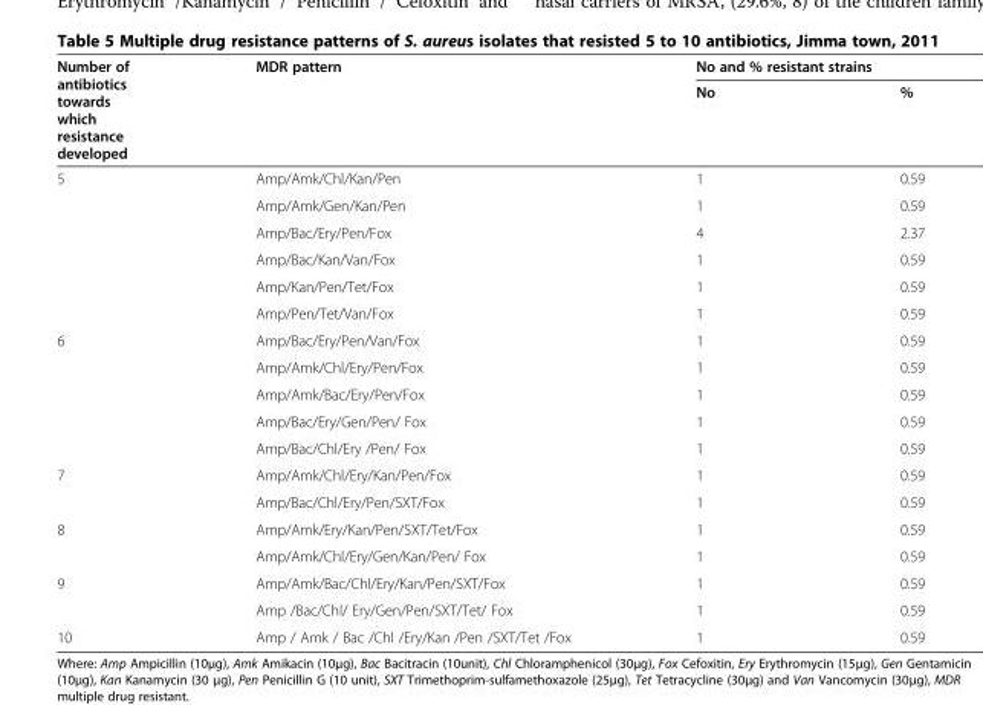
<table><thead><tr><td rowspan="2">Number of antibiotics towards which resistance developed</td><td rowspan="2">MDR pattern</td><td colspan="2">No and % resistant strains</td></tr><tr><td>No</td><td>%</td></tr></thead><tbody><tr><td rowspan="6">5</td><td>Amp/Amk/Chl/Kan/Pen</td><td>1</td><td>0.59</td></tr><tr><td>Amp/Amk/Gen/Kan/Pen</td><td>1</td><td>0.59</td></tr><tr><td>Amp/Bac/Ery/Pen/Fox</td><td>4</td><td>2.37</td></tr><tr><td>Amp/Bac/Kan/Van/Fox</td><td>1</td><td>0.59</td></tr><tr><td>Amp/Kan/Pen/Tet/Fox</td><td>1</td><td>0.59</td></tr><tr><td>Amp/Pen/Tet/Van/Fox</td><td>1</td><td>0.59</td></tr><tr><td rowspan="5">6</td><td>Amp/Bac/Ery/Pen/Van/Fox</td><td>1</td><td>0.59</td></tr><tr><td>Amp/Amk/Chl/Ery/Pen/Fox</td><td>1</td><td>0.59</td></tr><tr><td>Amp/Amk/Bac/Ery/Pen/Fox</td><td>1</td><td>0.59</td></tr><tr><td>Amp/Bac/Ery/Gen/Pen/ Fox</td><td>1</td><td>0.59</td></tr><tr><td>Amp/Bac/Chl/Ery /Pen/ Fox</td><td>1</td><td>0.59</td></tr><tr><td rowspan="2">7</td><td>Amp/Amk/Chl/Ery/Kan/Pen/Fox</td><td>1</td><td>0.59</td></tr><tr><td>Amp/Bac/Chl/Ery/Pen/SXT/Fox</td><td>1</td><td>0.59</td></tr><tr><td rowspan="2">8</td><td>Amp/Amk/Ery/Kan/Pen/SXT/Tet/Fox</td><td>1</td><td>0.59</td></tr><tr><td>Amp/Amk/Chl/Ery/Gen/Kan/Pen/ Fox</td><td>1</td><td>0.59</td></tr><tr><td rowspan="2">9</td><td>Amp/Amk/Bac/Chl/Ery/Kan/Pen/SXT/Fox</td><td>1</td><td>0.59</td></tr><tr><td>Amp /Bac/Chl/ Ery/Gen/Pen/SXT/Tet/ Fox</td><td>1</td><td>0.59</td></tr><tr><td>10</td><td>Amp / Amk / Bac /Chl /Ery/Kan /Pen /SXT/Tet /Fox</td><td>1</td><td>0.59</td></tr></tbody></table>